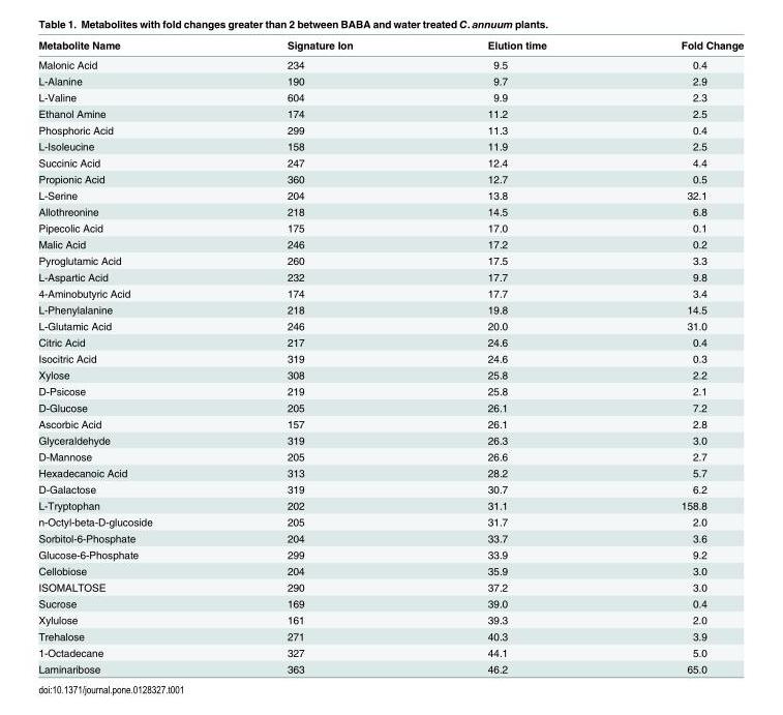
<table><thead><tr><td>Metabolite Name</td><td>Signature Ion</td><td>Elution time</td><td>Fold Change</td></tr></thead><tbody><tr><td>Malonic Acid</td><td>234</td><td>9.5</td><td>0.4</td></tr><tr><td>L-Alanine</td><td>190</td><td>9.7</td><td>2.9</td></tr><tr><td>L-Valine</td><td>604</td><td>9.9</td><td>2.3</td></tr><tr><td>Ethanol Amine</td><td>174</td><td>11.2</td><td>2.5</td></tr><tr><td>Phosphoric Acid</td><td>299</td><td>11.3</td><td>0.4</td></tr><tr><td>L-Isoleucine</td><td>158</td><td>11.9</td><td>2.5</td></tr><tr><td>Succinic Acid</td><td>247</td><td>12.4</td><td>4.4</td></tr><tr><td>Propionic Acid</td><td>360</td><td>12.7</td><td>0.5</td></tr><tr><td>L-Serine</td><td>204</td><td>13.8</td><td>32.1</td></tr><tr><td>Allothreonine</td><td>218</td><td>14.5</td><td>6.8</td></tr><tr><td>Pipecolic Acid</td><td>175</td><td>17.0</td><td>0.1</td></tr><tr><td>Malic Acid</td><td>246</td><td>17.2</td><td>0.2</td></tr><tr><td>Pyroglutamic Acid</td><td>260</td><td>17.5</td><td>3.3</td></tr><tr><td>L-Aspartic Acid</td><td>232</td><td>17.7</td><td>9.8</td></tr><tr><td>4-Aminobutyric Acid</td><td>174</td><td>17.7</td><td>3.4</td></tr><tr><td>L-Phenylalanine</td><td>218</td><td>19.8</td><td>14.5</td></tr><tr><td>L-Glutamic Acid</td><td>246</td><td>20.0</td><td>31.0</td></tr><tr><td>Citric Acid</td><td>217</td><td>24.6</td><td>0.4</td></tr><tr><td>Isocitric Acid</td><td>319</td><td>24.6</td><td>0.3</td></tr><tr><td>Xylose</td><td>308</td><td>25.8</td><td>2.2</td></tr><tr><td>D-Psicose</td><td>219</td><td>25.8</td><td>2.1</td></tr><tr><td>D-Glucose</td><td>205</td><td>26.1</td><td>7.2</td></tr><tr><td>Ascorbic Acid</td><td>157</td><td>26.1</td><td>2.8</td></tr><tr><td>Glyceraldehyde</td><td>319</td><td>26.3</td><td>3.0</td></tr><tr><td>D-Mannose</td><td>205</td><td>26.6</td><td>2.7</td></tr><tr><td>Hexadecanoic Acid</td><td>313</td><td>28.2</td><td>5.7</td></tr><tr><td>D-Galactose</td><td>319</td><td>30.7</td><td>6.2</td></tr><tr><td>L-Tryptophan</td><td>202</td><td>31.1</td><td>158.8</td></tr><tr><td>n-Octyl-beta-D-glucoside</td><td>205</td><td>31.7</td><td>2.0</td></tr><tr><td>Sorbitol-6-Phosphate</td><td>204</td><td>33.7</td><td>3.6</td></tr><tr><td>Glucose-6-Phosphate</td><td>299</td><td>33.9</td><td>9.2</td></tr><tr><td>Cellobiose</td><td>204</td><td>35.9</td><td>3.0</td></tr><tr><td>ISOMALTOSE</td><td>290</td><td>37.2</td><td>3.0</td></tr><tr><td>Sucrose</td><td>169</td><td>39.0</td><td>0.4</td></tr><tr><td>Xylulose</td><td>161</td><td>39.3</td><td>2.0</td></tr><tr><td>Trehalose</td><td>271</td><td>40.3</td><td>3.9</td></tr><tr><td>1-Octadecane</td><td>327</td><td>44.1</td><td>5.0</td></tr><tr><td>Laminaribose</td><td>363</td><td>46.2</td><td>65.0</td></tr></tbody></table>